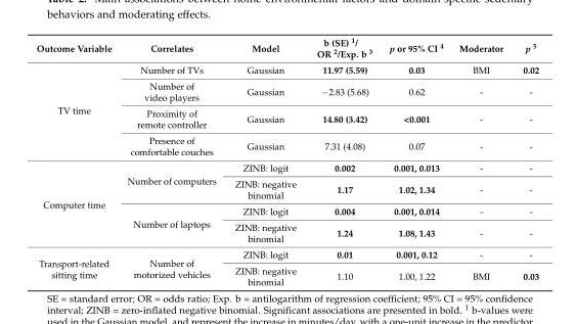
<table><thead><tr><td>Outcome Variable</td><td>Correlates</td><td>Model</td><td>b (SE) <sup>1</sup>/ OR <sup>2</sup>/Exp. b <sup>3</sup></td><td>p or 95% CI <sup>4</sup></td><td>Moderator</td><td>p <sup>5</sup></td></tr></thead><tbody><tr><td rowspan="4">TV time</td><td>Number of TVs</td><td>Gaussian</td><td>11.97 (5.59)</td><td>0.03</td><td>BMI</td><td>0.02</td></tr><tr><td>Number of video players</td><td>Gaussian</td><td>−2.83 (5.68)</td><td>0.62</td><td>-</td><td>-</td></tr><tr><td>Proximity of remote controller</td><td>Gaussian</td><td>14.80 (3.42)</td><td>&lt;0.001</td><td>-</td><td>-</td></tr><tr><td>Presence of comfortable couches</td><td>Gaussian</td><td>7.31 (4.08)</td><td>0.07</td><td>-</td><td>-</td></tr><tr><td rowspan="4">Computer time</td><td rowspan="2">Number of computers</td><td>ZINB: logit</td><td>0.002</td><td>0.001, 0.013</td><td>-</td><td>-</td></tr><tr><td>ZINB: negative binomial</td><td>1.17</td><td>1.02, 1.34</td><td>-</td><td>-</td></tr><tr><td rowspan="2">Number of laptops</td><td>ZINB: logit</td><td>0.004</td><td>0.001, 0.014</td><td>-</td><td>-</td></tr><tr><td>ZINB: negative binomial</td><td>1.24</td><td>1.08, 1.43</td><td>-</td><td>-</td></tr><tr><td rowspan="2">Transport-related sitting time</td><td rowspan="2">Number of motorized vehicles</td><td>ZINB: logit</td><td>0.01</td><td>0.001, 0.12</td><td>-</td><td>-</td></tr><tr><td>ZINB: negative binomial</td><td>1.10</td><td>1.00, 1.22</td><td>BMI</td><td>0.03</td></tr></tbody></table>